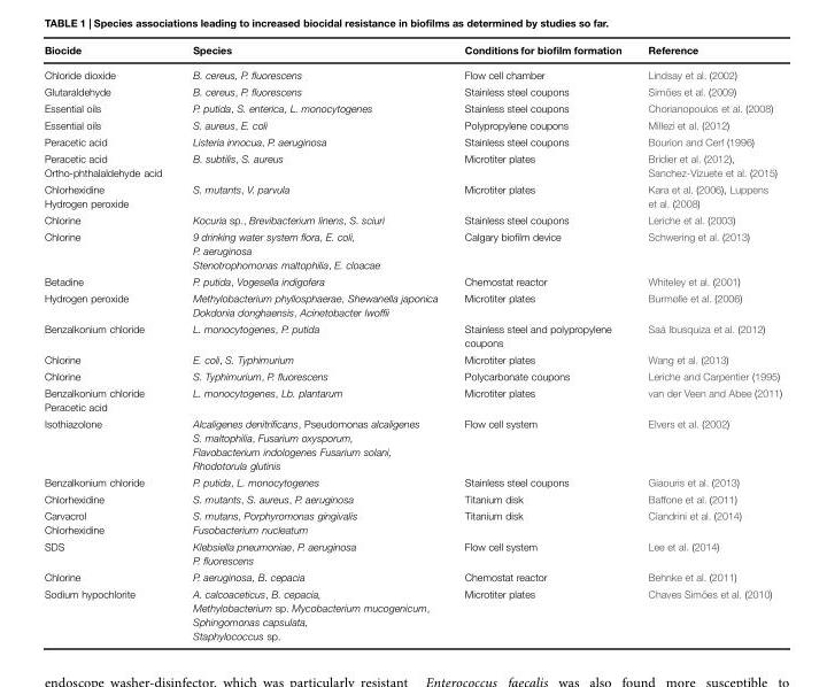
<table><thead><tr><td>Biocide</td><td>Species</td><td>Conditions for biofilm formation</td><td>Reference</td></tr></thead><tbody><tr><td>Chloride dioxide</td><td>B. cereus, P. fluorescens</td><td>Flow cell chamber</td><td>Lindsay et al. (2002)</td></tr><tr><td>Glutaraldehyde</td><td>B. cereus, P. fluorescens</td><td>Stainless steel coupons</td><td>Simões et al. (2009)</td></tr><tr><td>Essential oils</td><td>P. putida, S. enterica, L. monocytogenes</td><td>Stainless steel coupons</td><td>Chorianopoulos et al. (2008)</td></tr><tr><td>Essential oils</td><td>S. aureus, E. coli</td><td>Polypropylene coupons</td><td>Millezi et al. (2012)</td></tr><tr><td>Peracetic acid</td><td>Listeria innocua, P. aeruginosa</td><td>Stainless steel coupons</td><td>Bourion and Cerf (1996)</td></tr><tr><td>Peracetic acid Ortho-phthalaldehyde acid</td><td>B. subtilis, S. aureus</td><td>Microtiter plates</td><td>Bridier et al. (2012), Sanchez-Vizuete et al. (2015)</td></tr><tr><td>Chlorhexidine Hydrogen peroxide</td><td>S. mutants, V. parvula</td><td>Microtiter plates</td><td>Kara et al. (2006), Luppens et al. (2008)</td></tr><tr><td>Chlorine</td><td>Kocuria sp., Brevibacterium linens, S. sciuri</td><td>Stainless steel coupons</td><td>Leriche et al. (2003)</td></tr><tr><td>Chlorine</td><td>9 drinking water system flora, E. coli, P. aeruginosa Stenotrophomonas maltophilia, E. cloacae</td><td>Calgary biofilm device</td><td>Schwering et al. (2013)</td></tr><tr><td>Betadine</td><td>P. putida, Vogesella indigofera</td><td>Chemostat reactor</td><td>Whiteley et al. (2001)</td></tr><tr><td>Hydrogen peroxide</td><td>Methylobacterium phyllosphaerae, Shewanella japonica Dokdonia donghaensis, Acinetobacter lwoffii</td><td>Microtiter plates</td><td>Burmølle et al. (2006)</td></tr><tr><td>Benzalkonium chloride</td><td>L. monocytogenes, P. putida</td><td>Stainless steel and polypropylene coupons</td><td>Saá Ibusquiza et al. (2012)</td></tr><tr><td>Chlorine</td><td>E. coli, S. Typhimurium</td><td>Microtiter plates</td><td>Wang et al. (2013)</td></tr><tr><td>Chlorine</td><td>S. Typhimurium, P. fluorescens</td><td>Polycarbonate coupons</td><td>Leriche and Carpentier (1995)</td></tr><tr><td>Benzalkonium chloride Peracetic acid</td><td>L. monocytogenes, Lb. plantarum</td><td>Microtiter plates</td><td>van der Veen and Abee (2011)</td></tr><tr><td>Isothiazolone</td><td>Alcaligenes denitrificans, Pseudomonas alcaligenes S. maltophilia, Fusarium oxysporum, Flavobacterium indologenes Fusarium solani, Rhodotorula glutinis</td><td>Flow cell system</td><td>Elvers et al. (2002)</td></tr><tr><td>Benzalkonium chloride</td><td>P. putida, L. monocytogenes</td><td>Stainless steel coupons</td><td>Giaouris et al. (2013)</td></tr><tr><td>Chlorhexidine</td><td>S. mutants, S. aureus, P. aeruginosa</td><td>Titanium disk</td><td>Baffone et al. (2011)</td></tr><tr><td>Carvacrol Chlorhexidine</td><td>S. mutans, Porphyromonas gingivalis Fusobacterium nucleatum</td><td>Titanium disk</td><td>Ciandrini et al. (2014)</td></tr><tr><td>SDS</td><td>Klebsiella pneumoniae, P. aeruginosa P. fluorescens</td><td>Flow cell system</td><td>Lee et al. (2014)</td></tr><tr><td>Chlorine</td><td>P. aeruginosa, B. cepacia</td><td>Chemostat reactor</td><td>Behnke et al. (2011)</td></tr><tr><td>Sodium hypochlorite</td><td>A. calcoaceticus, B. cepacia, Methylobacterium sp. Mycobacterium mucogenicum, Sphingomonas capsulata, Staphylococcus sp.</td><td>Microtiter plates</td><td>Chaves Simões et al. (2010)</td></tr></tbody></table>